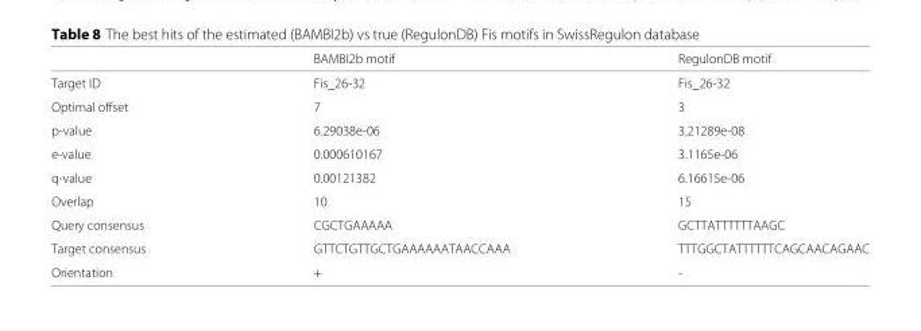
<table><thead><tr><td></td><td>BAMBI2b motif</td><td>RegulonDB motif</td></tr></thead><tbody><tr><td>Target ID</td><td>Fis_26-32</td><td>Fis_26-32</td></tr><tr><td>Optimal offset</td><td>7</td><td>3</td></tr><tr><td>p-value</td><td>6.29038e-06</td><td>3.21289e-08</td></tr><tr><td>e-value</td><td>0.000610167</td><td>3.1165e-06</td></tr><tr><td>q-value</td><td>0.00121382</td><td>6.16615e-06</td></tr><tr><td>Overlap</td><td>10</td><td>15</td></tr><tr><td>Query consensus</td><td>CGCTGAAAAA</td><td>GCTTATTTTTTAAGC</td></tr><tr><td>Target consensus</td><td>GTTCTGTTGCTGAAAAAATAACCAAA</td><td>TTTGGCTATTTTTTCAGCAACAGAAC</td></tr><tr><td>Orientation</td><td>+</td><td>-</td></tr></tbody></table>